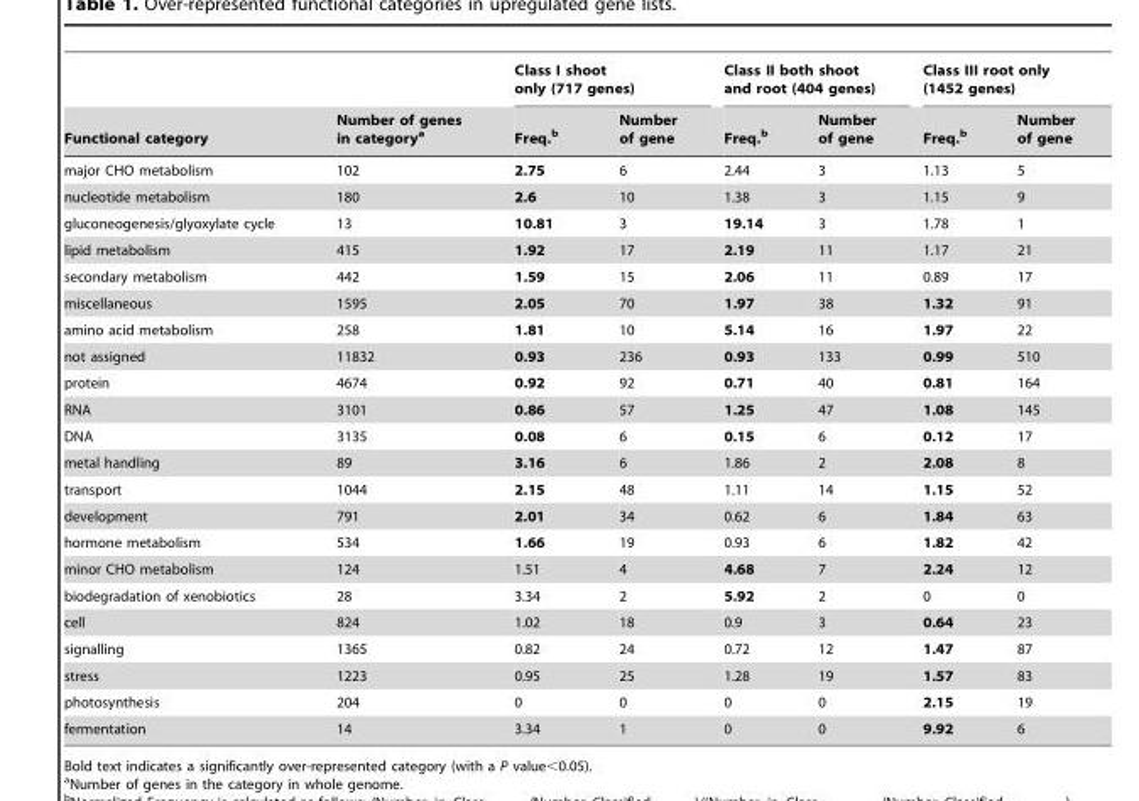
<table><thead><tr><td rowspan="2">Functional category</td><td rowspan="2">Number of genes in category<sup>a</sup></td><td colspan="2">Class I shoot only (717 genes)</td><td colspan="2">Class II both shoot and root (404 genes)</td><td colspan="2">Class III root only (1452 genes)</td></tr><tr><td>Freq.<sup>b</sup></td><td>Number of gene</td><td>Freq.<sup>b</sup></td><td>Number of gene</td><td>Freq.<sup>b</sup></td><td>Number of gene</td></tr></thead><tbody><tr><td>major CHO metabolism</td><td>102</td><td>2.75</td><td>6</td><td>2.44</td><td>3</td><td>1.13</td><td>5</td></tr><tr><td>nucleotide metabolism</td><td>180</td><td>2.6</td><td>10</td><td>1.38</td><td>3</td><td>1.15</td><td>9</td></tr><tr><td>gluconeogenesis/glyoxylate cycle</td><td>13</td><td>10.81</td><td>3</td><td>19.14</td><td>3</td><td>1.78</td><td>1</td></tr><tr><td>lipid metabolism</td><td>415</td><td>1.92</td><td>17</td><td>2.19</td><td>11</td><td>1.17</td><td>21</td></tr><tr><td>secondary metabolism</td><td>442</td><td>1.59</td><td>15</td><td>2.06</td><td>11</td><td>0.89</td><td>17</td></tr><tr><td>miscellaneous</td><td>1595</td><td>2.05</td><td>70</td><td>1.97</td><td>38</td><td>1.32</td><td>91</td></tr><tr><td>amino acid metabolism</td><td>258</td><td>1.81</td><td>10</td><td>5.14</td><td>16</td><td>1.97</td><td>22</td></tr><tr><td>not assigned</td><td>11832</td><td>0.93</td><td>236</td><td>0.93</td><td>133</td><td>0.99</td><td>510</td></tr><tr><td>protein</td><td>4674</td><td>0.92</td><td>92</td><td>0.71</td><td>40</td><td>0.81</td><td>164</td></tr><tr><td>RNA</td><td>3101</td><td>0.86</td><td>57</td><td>1.25</td><td>47</td><td>1.08</td><td>145</td></tr><tr><td>DNA</td><td>3135</td><td>0.08</td><td>6</td><td>0.15</td><td>6</td><td>0.12</td><td>17</td></tr><tr><td>metal handling</td><td>89</td><td>3.16</td><td>6</td><td>1.86</td><td>2</td><td>2.08</td><td>8</td></tr><tr><td>transport</td><td>1044</td><td>2.15</td><td>48</td><td>1.11</td><td>14</td><td>1.15</td><td>52</td></tr><tr><td>development</td><td>791</td><td>2.01</td><td>34</td><td>0.62</td><td>6</td><td>1.84</td><td>63</td></tr><tr><td>hormone metabolism</td><td>534</td><td>1.66</td><td>19</td><td>0.93</td><td>6</td><td>1.82</td><td>42</td></tr><tr><td>minor CHO metabolism</td><td>124</td><td>1.51</td><td>4</td><td>4.68</td><td>7</td><td>2.24</td><td>12</td></tr><tr><td>biodegradation of xenobiotics</td><td>28</td><td>3.34</td><td>2</td><td>5.92</td><td>2</td><td>0</td><td>0</td></tr><tr><td>cell</td><td>824</td><td>1.02</td><td>18</td><td>0.9</td><td>3</td><td>0.64</td><td>23</td></tr><tr><td>signalling</td><td>1365</td><td>0.82</td><td>24</td><td>0.72</td><td>12</td><td>1.47</td><td>87</td></tr><tr><td>stress</td><td>1223</td><td>0.95</td><td>25</td><td>1.28</td><td>19</td><td>1.57</td><td>83</td></tr><tr><td>photosynthesis</td><td>204</td><td>0</td><td>0</td><td>0</td><td>0</td><td>2.15</td><td>19</td></tr><tr><td>fermentation</td><td>14</td><td>3.34</td><td>1</td><td>0</td><td>0</td><td>9.92</td><td>6</td></tr></tbody></table>